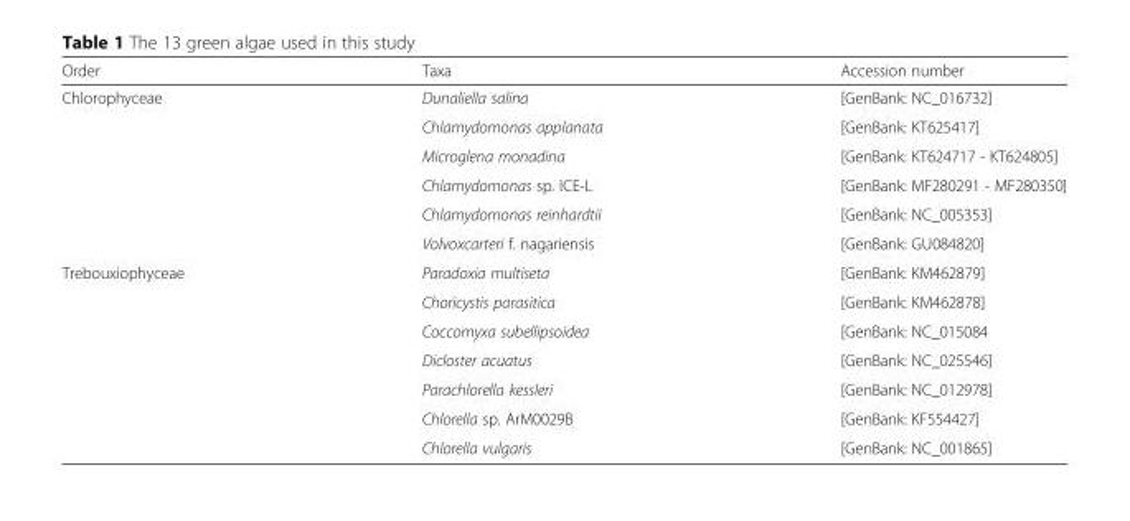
<table><thead><tr><td>Order</td><td>Taxa</td><td>Accession number</td></tr></thead><tbody><tr><td rowspan="6">Chlorophyceae</td><td>Dunaliella salina</td><td>[GenBank: NC_016732]</td></tr><tr><td>Chlamydomonas applanata</td><td>[GenBank: KT625417]</td></tr><tr><td>Microglena monadina</td><td>[GenBank: KT624717 - KT624805]</td></tr><tr><td>Chlamydomonas sp. ICE-L</td><td>[GenBank: MF280291 - MF280350]</td></tr><tr><td>Chlamydomonas reinhardtii</td><td>[GenBank: NC_005353]</td></tr><tr><td>Volvoxcarteri f. nagariensis</td><td>[GenBank: GU084820]</td></tr><tr><td rowspan="7">Trebouxiophyceae</td><td>Paradoxia multiseta</td><td>[GenBank: KM462879]</td></tr><tr><td>Choricystis parasitica</td><td>[GenBank: KM462878]</td></tr><tr><td>Coccomyxa subellipsoidea</td><td>[GenBank: NC_015084</td></tr><tr><td>Dicloster acuatus</td><td>[GenBank: NC_025546]</td></tr><tr><td>Parachlorella kessleri</td><td>[GenBank: NC_012978]</td></tr><tr><td>Chlorella sp. ArM0029B</td><td>[GenBank: KF554427]</td></tr><tr><td>Chlorella vulgaris</td><td>[GenBank: NC_001865]</td></tr></tbody></table>